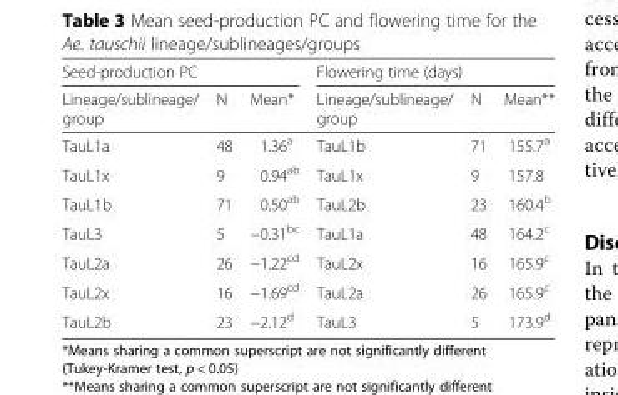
<table><thead><tr><td colspan="3">Seed-production PC</td><td colspan="3">Flowering time (days)</td></tr><tr><td>Lineage/sublineage/ group</td><td>N</td><td>Mean*</td><td>Lineage/sublineage/ group</td><td>N</td><td>Mean**</td></tr></thead><tbody><tr><td>TauL1a</td><td>48</td><td>1.36<sup>a</sup></td><td>TauL1b</td><td>71</td><td>155.7<sup>a</sup></td></tr><tr><td>TauL1x</td><td>9</td><td>0.94<sup>ab</sup></td><td>TauL1x</td><td>9</td><td>157.8</td></tr><tr><td>TauL1b</td><td>71</td><td>0.50<sup>ab</sup></td><td>TauL2b</td><td>23</td><td>160.4<sup>b</sup></td></tr><tr><td>TauL3</td><td>5</td><td>−0.31<sup>bc</sup></td><td>TauL1a</td><td>48</td><td>164.2<sup>c</sup></td></tr><tr><td>TauL2a</td><td>26</td><td>−1.22<sup>cd</sup></td><td>TauL2x</td><td>16</td><td>165.9<sup>c</sup></td></tr><tr><td>TauL2x</td><td>16</td><td>−1.69<sup>cd</sup></td><td>TauL2a</td><td>26</td><td>165.9<sup>c</sup></td></tr><tr><td>TauL2b</td><td>23</td><td>−2.12<sup>d</sup></td><td>TauL3</td><td>5</td><td>173.9<sup>d</sup></td></tr></tbody></table>